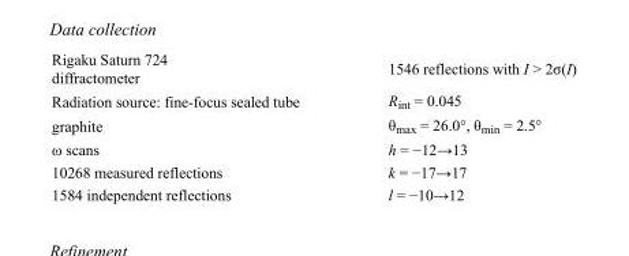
<table><tbody><tr><td>Rigaku Saturn 724 diffractometer</td><td>1546 reflections with I &gt; 2σ(I)</td></tr><tr><td>Radiation source: fine-focus sealed tube</td><td>R<sub>int</sub> = 0.045</td></tr><tr><td>graphite</td><td>θ<sub>max</sub> = 26.0°, θ<sub>min</sub> = 2.5°</td></tr><tr><td>ω scans</td><td>h = −12→13</td></tr><tr><td>10268 measured reflections</td><td>k = −17→17</td></tr><tr><td>1584 independent reflections</td><td>l = −10→12</td></tr></tbody></table>